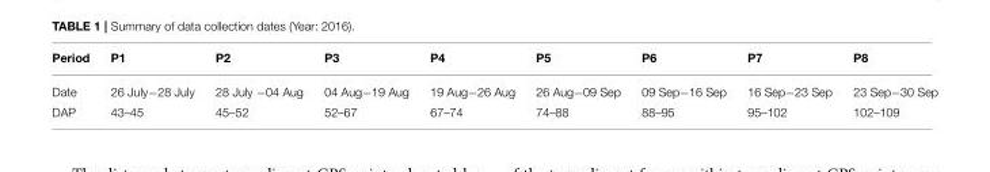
<table><thead><tr><td>Period</td><td>P1</td><td>P2</td><td>P3</td><td>P4</td><td>P5</td><td>P6</td><td>P7</td><td>P8</td></tr></thead><tbody><tr><td>Date</td><td>26 July−28 July</td><td>28 July −04 Aug</td><td>04 Aug−19 Aug</td><td>19 Aug−26 Aug</td><td>26 Aug−09 Sep</td><td>09 Sep−16 Sep</td><td>16 Sep−23 Sep</td><td>23 Sep−30 Sep</td></tr><tr><td>DAP</td><td>43–45</td><td>45–52</td><td>52–67</td><td>67–74</td><td>74–88</td><td>88–95</td><td>95–102</td><td>102–109</td></tr></tbody></table>